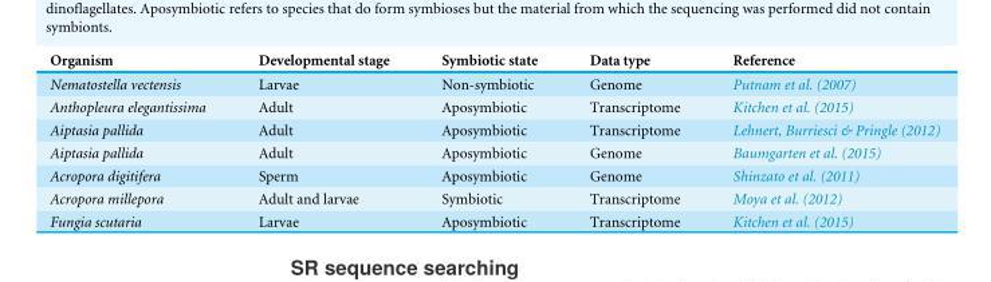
<table><thead><tr><td>Organism</td><td>Developmental stage</td><td>Symbiotic state</td><td>Data type</td><td>Reference</td></tr></thead><tbody><tr><td>Nematostella vectensis</td><td>Larvae</td><td>Non-symbiotic</td><td>Genome</td><td>Putnam et al. (2007)</td></tr><tr><td>Anthopleura elegantissima</td><td>Adult</td><td>Aposymbiotic</td><td>Transcriptome</td><td>Kitchen et al. (2015)</td></tr><tr><td>Aiptasia pallida</td><td>Adult</td><td>Aposymbiotic</td><td>Transcriptome</td><td>Lehnert, Burriesci &amp; Pringle (2012)</td></tr><tr><td>Aiptasia pallida</td><td>Adult</td><td>Aposymbiotic</td><td>Genome</td><td>Baumgarten et al. (2015)</td></tr><tr><td>Acropora digitifera</td><td>Sperm</td><td>Aposymbiotic</td><td>Genome</td><td>Shinzato et al. (2011)</td></tr><tr><td>Acropora millepora</td><td>Adult and larvae</td><td>Symbiotic</td><td>Transcriptome</td><td>Moya et al. (2012)</td></tr><tr><td>Fungia scutaria</td><td>Larvae</td><td>Aposymbiotic</td><td>Transcriptome</td><td>Kitchen et al. (2015)</td></tr></tbody></table>